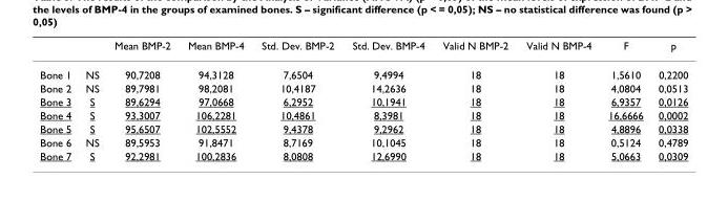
<table><thead><tr><td></td><td></td><td>Mean BMP-2</td><td>Mean BMP-4</td><td>Std. Dev. BMP-2</td><td>Std. Dev. BMP-4</td><td>Valid N BMP-2</td><td>Valid N BMP-4</td><td>F</td><td>p</td></tr></thead><tbody><tr><td>Bone 1</td><td>NS</td><td>90,7208</td><td>94,3128</td><td>7,6504</td><td>9,4994</td><td>18</td><td>18</td><td>1,5610</td><td>0,2200</td></tr><tr><td>Bone 2</td><td>NS</td><td>89,7981</td><td>98,2081</td><td>10,4187</td><td>14,2636</td><td>18</td><td>18</td><td>4,0804</td><td>0,0513</td></tr><tr><td>Bone 3</td><td>S</td><td>89,6294</td><td>97,0668</td><td>6,2952</td><td>10,1941</td><td>18</td><td>18</td><td>6,9357</td><td>0,0126</td></tr><tr><td>Bone 4</td><td>S</td><td>93,3007</td><td>106,2281</td><td>10,4861</td><td>8,3981</td><td>18</td><td>18</td><td>16,6666</td><td>0,0002</td></tr><tr><td>Bone 5</td><td>S</td><td>95,6507</td><td>102,5552</td><td>9,4378</td><td>9,2962</td><td>18</td><td>18</td><td>4,8896</td><td>0,0338</td></tr><tr><td>Bone 6</td><td>NS</td><td>89,5953</td><td>91,8471</td><td>8,7169</td><td>10,1045</td><td>18</td><td>18</td><td>0,5124</td><td>0,4789</td></tr><tr><td>Bone 7</td><td>S</td><td>92,2981</td><td>100,2836</td><td>8,0808</td><td>12,6990</td><td>18</td><td>18</td><td>5,0663</td><td>0,0309</td></tr></tbody></table>